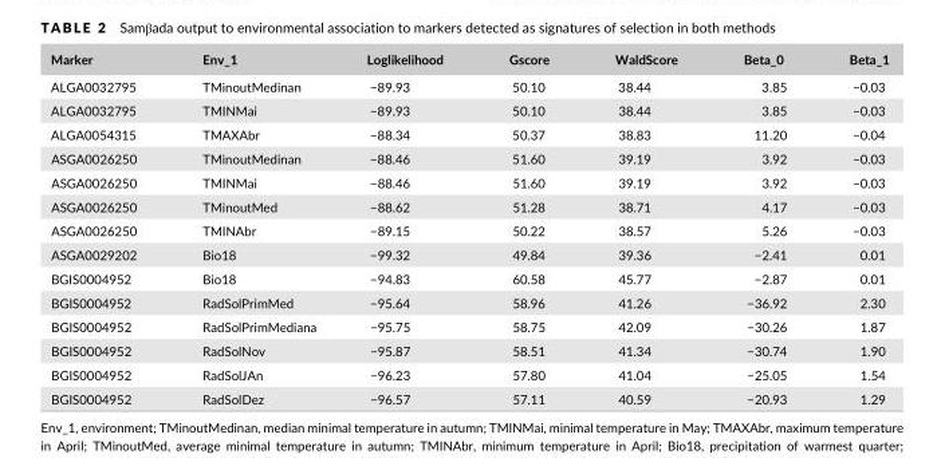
<table><thead><tr><td>Marker</td><td>Env_1</td><td>Loglikelihood</td><td>Gscore</td><td>WaldScore</td><td>Beta_0</td><td>Beta_1</td></tr></thead><tbody><tr><td>ALGA0032795</td><td>TMinoutMedinan</td><td>−89.93</td><td>50.10</td><td>38.44</td><td>3.85</td><td>−0.03</td></tr><tr><td>ALGA0032795</td><td>TMINMai</td><td>−89.93</td><td>50.10</td><td>38.44</td><td>3.85</td><td>−0.03</td></tr><tr><td>ALGA0054315</td><td>TMAXAbr</td><td>−88.34</td><td>50.37</td><td>38.83</td><td>11.20</td><td>−0.04</td></tr><tr><td>ASGA0026250</td><td>TMinoutMedinan</td><td>−88.46</td><td>51.60</td><td>39.19</td><td>3.92</td><td>−0.03</td></tr><tr><td>ASGA0026250</td><td>TMINMai</td><td>−88.46</td><td>51.60</td><td>39.19</td><td>3.92</td><td>−0.03</td></tr><tr><td>ASGA0026250</td><td>TMinoutMed</td><td>−88.62</td><td>51.28</td><td>38.71</td><td>4.17</td><td>−0.03</td></tr><tr><td>ASGA0026250</td><td>TMINAbr</td><td>−89.15</td><td>50.22</td><td>38.57</td><td>5.26</td><td>−0.03</td></tr><tr><td>ASGA0029202</td><td>Bio18</td><td>−99.32</td><td>49.84</td><td>39.36</td><td>−2.41</td><td>0.01</td></tr><tr><td>BGIS0004952</td><td>Bio18</td><td>−94.83</td><td>60.58</td><td>45.77</td><td>−2.87</td><td>0.01</td></tr><tr><td>BGIS0004952</td><td>RadSolPrimMed</td><td>−95.64</td><td>58.96</td><td>41.26</td><td>−36.92</td><td>2.30</td></tr><tr><td>BGIS0004952</td><td>RadSolPrimMediana</td><td>−95.75</td><td>58.75</td><td>42.09</td><td>−30.26</td><td>1.87</td></tr><tr><td>BGIS0004952</td><td>RadSolNov</td><td>−95.87</td><td>58.51</td><td>41.34</td><td>−30.74</td><td>1.90</td></tr><tr><td>BGIS0004952</td><td>RadSolJAn</td><td>−96.23</td><td>57.80</td><td>41.04</td><td>−25.05</td><td>1.54</td></tr><tr><td>BGIS0004952</td><td>RadSolDez</td><td>−96.57</td><td>57.11</td><td>40.59</td><td>−20.93</td><td>1.29</td></tr></tbody></table>